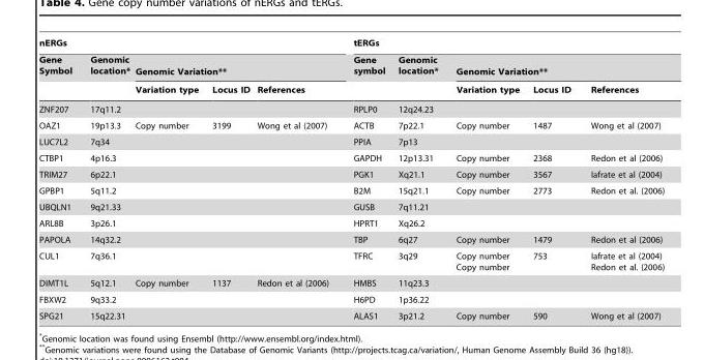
<table><thead><tr><td colspan="5">nERGs</td><td colspan="5">tERGs</td></tr><tr><td rowspan="2">Gene Symbol</td><td rowspan="2">Genomic location*</td><td colspan="3">Genomic Variation**</td><td rowspan="2">Gene symbol</td><td rowspan="2">Genomic location*</td><td colspan="3">Genomic Variation**</td></tr><tr><td>Variation type</td><td>Locus ID</td><td>References</td><td>Variation type</td><td>Locus ID</td><td>References</td></tr></thead><tbody><tr><td>ZNF207</td><td colspan="4">17q11.2</td><td>RPLP0</td><td colspan="4">12q24.23</td></tr><tr><td>OAZ1</td><td>19p13.3</td><td>Copy number</td><td>3199</td><td>Wong et al (2007)</td><td>ACTB</td><td>7p22.1</td><td>Copy number</td><td>1487</td><td>Wong et al (2007)</td></tr><tr><td>LUC7L2</td><td colspan="4">7q34</td><td>PPIA</td><td>7p13</td><td colspan="3"></td></tr><tr><td>CTBP1</td><td colspan="4">4p16.3</td><td>GAPDH</td><td>12p13.31</td><td>Copy number</td><td>2368</td><td>Redon et al (2006)</td></tr><tr><td>TRIM27</td><td>6p22.1</td><td colspan="3"></td><td>PGK1</td><td>Xq21.1</td><td>Copy number</td><td>3567</td><td>Iafrate et al (2004)</td></tr><tr><td>GPBP1</td><td>5q11.2</td><td colspan="3"></td><td>B2M</td><td>15q21.1</td><td>Copy number</td><td>2773</td><td>Redon et al. (2006)</td></tr><tr><td>UBQLN1</td><td>9q21.33</td><td colspan="3"></td><td>GUSB</td><td>7q11.21</td><td colspan="3"></td></tr><tr><td>ARL8B</td><td>3p26.1</td><td colspan="3"></td><td>HPRT1</td><td>Xq26.2</td><td colspan="3"></td></tr><tr><td>PAPOLA</td><td>14q32.2</td><td colspan="3"></td><td>TBP</td><td>6q27</td><td>Copy number</td><td>1479</td><td>Redon et al (2006)</td></tr><tr><td>CUL1</td><td>7q36.1</td><td colspan="3"></td><td>TFRC</td><td>3q29</td><td>Copy number Copy number</td><td>753</td><td>Iafrate et al (2004) Redon et al. (2006)</td></tr><tr><td>DIMT1L</td><td>5q12.1</td><td>Copy number</td><td>1137</td><td>Redon et al (2006)</td><td>HMBS</td><td>11q23.3</td><td colspan="3"></td></tr><tr><td>FBXW2</td><td>9q33.2</td><td colspan="3"></td><td>H6PD</td><td>1p36.22</td><td colspan="3"></td></tr><tr><td>SPG21</td><td>15q22.31</td><td colspan="3"></td><td>ALAS1</td><td>3p21.2</td><td>Copy number</td><td>590</td><td>Wong et al (2007)</td></tr></tbody></table>